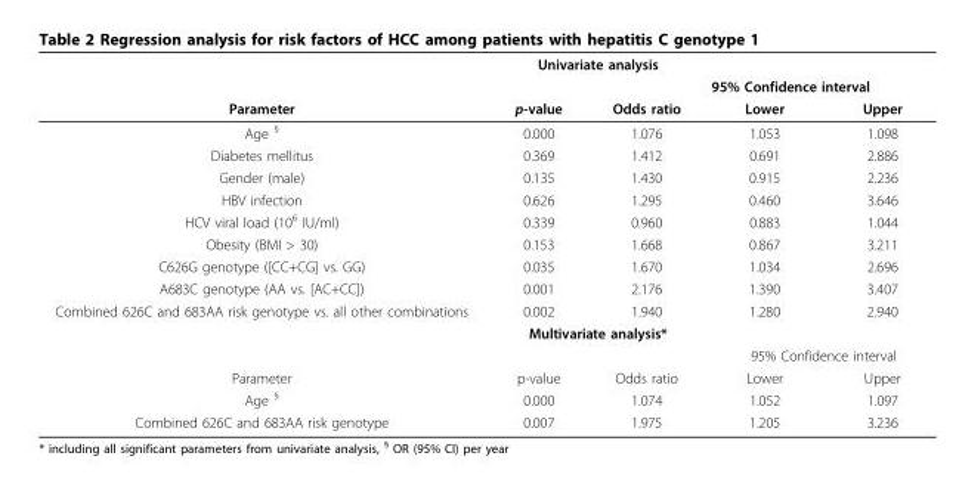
<table><thead><tr><td rowspan="3">Parameter</td><td colspan="2">Univariate analysis</td><td></td><td></td></tr><tr><td rowspan="2">p-value</td><td rowspan="2">Odds ratio</td><td colspan="2">95% Confidence interval</td></tr><tr><td>Lower</td><td>Upper</td></tr></thead><tbody><tr><td>Age <sup>§</sup></td><td>0.000</td><td>1.076</td><td>1.053</td><td>1.098</td></tr><tr><td>Diabetes mellitus</td><td>0.369</td><td>1.412</td><td>0.691</td><td>2.886</td></tr><tr><td>Gender (male)</td><td>0.135</td><td>1.430</td><td>0.915</td><td>2.236</td></tr><tr><td>HBV infection</td><td>0.626</td><td>1.295</td><td>0.460</td><td>3.646</td></tr><tr><td>HCV viral load (10<sup>6</sup> IU/ml)</td><td>0.339</td><td>0.960</td><td>0.883</td><td>1.044</td></tr><tr><td>Obesity (BMI &gt; 30)</td><td>0.153</td><td>1.668</td><td>0.867</td><td>3.211</td></tr><tr><td>C626G genotype ([CC+CG] vs. GG)</td><td>0.035</td><td>1.670</td><td>1.034</td><td>2.696</td></tr><tr><td>A683C genotype (AA vs. [AC+CC])</td><td>0.001</td><td>2.176</td><td>1.390</td><td>3.407</td></tr><tr><td rowspan="3">Combined 626C and 683AA risk genotype vs. all other combinations</td><td>0.002</td><td>1.940</td><td>1.280</td><td>2.940</td></tr><tr><td colspan="2">Multivariate analysis*</td><td></td><td></td></tr><tr><td></td><td></td><td colspan="2">95% Confidence interval</td></tr><tr><td>Parameter</td><td>p-value</td><td>Odds ratio</td><td>Lower</td><td>Upper</td></tr><tr><td>Age <sup>§</sup></td><td>0.000</td><td>1.074</td><td>1.052</td><td>1.097</td></tr><tr><td>Combined 626C and 683AA risk genotype</td><td>0.007</td><td>1.975</td><td>1.205</td><td>3.236</td></tr></tbody></table>